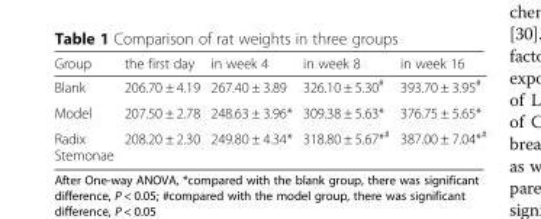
<table><thead><tr><td>Group</td><td>the first day</td><td>in week 4</td><td>in week 8</td><td>in week 16</td></tr></thead><tbody><tr><td>Blank</td><td>206.70 ± 4.19</td><td>267.40 ± 3.89</td><td>326.10 ± 5.30<sup>#</sup></td><td>393.70 ± 3.95<sup>#</sup></td></tr><tr><td>Model</td><td>207.50 ± 2.78</td><td>248.63 ± 3.96*</td><td>309.38 ± 5.63*</td><td>376.75 ± 5.65*</td></tr><tr><td>Radix Stemonae</td><td>208.20 ± 2.30</td><td>249.80 ± 4.34*</td><td>318.80 ± 5.67*<sup>#</sup></td><td>387.00 ± 7.04*<sup>#</sup></td></tr></tbody></table>